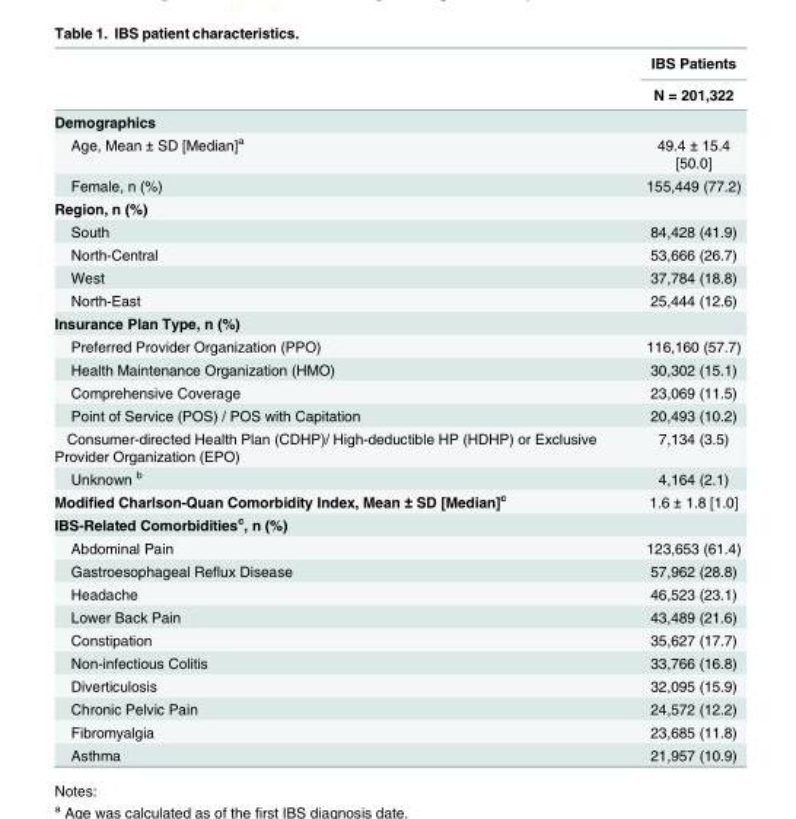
<table><thead><tr><td rowspan="2"></td><td rowspan="2">IBS Patients N = 201,322</td></tr><tr></tr></thead><tbody><tr><td colspan="2">Demographics</td></tr><tr><td>Age, Mean ± SD [Median]<sup>a</sup></td><td>49.4 ± 15.4 [50.0]</td></tr><tr><td>Female, n (%)</td><td>155,449 (77.2)</td></tr><tr><td colspan="2">Region, n (%)</td></tr><tr><td>South</td><td>84,428 (41.9)</td></tr><tr><td>North-Central</td><td>53,666 (26.7)</td></tr><tr><td>West</td><td>37,784 (18.8)</td></tr><tr><td>North-East</td><td>25,444 (12.6)</td></tr><tr><td colspan="2">Insurance Plan Type, n (%)</td></tr><tr><td>Preferred Provider Organization (PPO)</td><td>116,160 (57.7)</td></tr><tr><td>Health Maintenance Organization (HMO)</td><td>30,302 (15.1)</td></tr><tr><td>Comprehensive Coverage</td><td>23,069 (11.5)</td></tr><tr><td>Point of Service (POS) / POS with Capitation</td><td>20,493 (10.2)</td></tr><tr><td>Consumer-directed Health Plan (CDHP)/ High-deductible HP (HDHP) or Exclusive Provider Organization (EPO)</td><td>7,134 (3.5)</td></tr><tr><td>Unknown <sup>b</sup></td><td>4,164 (2.1)</td></tr><tr><td>Modified Charlson-Quan Comorbidity Index, Mean ± SD [Median]<sup>c</sup></td><td>1.6 ± 1.8 [1.0]</td></tr><tr><td colspan="2">IBS-Related Comorbidities<sup>c</sup>, n (%)</td></tr><tr><td>Abdominal Pain</td><td>123,653 (61.4)</td></tr><tr><td>Gastroesophageal Reflux Disease</td><td>57,962 (28.8)</td></tr><tr><td>Headache</td><td>46,523 (23.1)</td></tr><tr><td>Lower Back Pain</td><td>43,489 (21.6)</td></tr><tr><td>Constipation</td><td>35,627 (17.7)</td></tr><tr><td>Non-infectious Colitis</td><td>33,766 (16.8)</td></tr><tr><td>Diverticulosis</td><td>32,095 (15.9)</td></tr><tr><td>Chronic Pelvic Pain</td><td>24,572 (12.2)</td></tr><tr><td>Fibromyalgia</td><td>23,685 (11.8)</td></tr><tr><td>Asthma</td><td>21,957 (10.9)</td></tr></tbody></table>